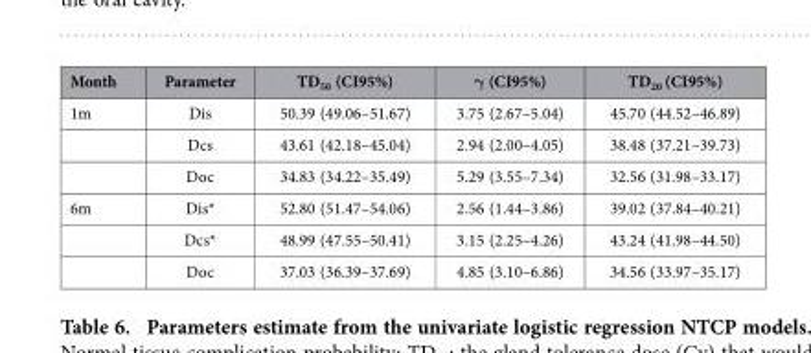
<table><thead><tr><td>Month</td><td>Parameter</td><td>TD<sub>50</sub> (CI95%)</td><td>γ (CI95%)</td><td>TD<sub>20</sub> (CI95%)</td></tr></thead><tbody><tr><td rowspan="3">1m</td><td>Dis</td><td>50.39 (49.06–51.67)</td><td>3.75 (2.67–5.04)</td><td>45.70 (44.52–46.89)</td></tr><tr><td>Dcs</td><td>43.61 (42.18–45.04)</td><td>2.94 (2.00–4.05)</td><td>38.48 (37.21–39.73)</td></tr><tr><td>Doc</td><td>34.83 (34.22–35.49)</td><td>5.29 (3.55–7.34)</td><td>32.56 (31.98–33.17)</td></tr><tr><td rowspan="3">6m</td><td>Dis*</td><td>52.80 (51.47–54.06)</td><td>2.56 (1.44–3.86)</td><td>39.02 (37.84–40.21)</td></tr><tr><td>Dcs*</td><td>48.99 (47.55–50.41)</td><td>3.15 (2.25–4.26)</td><td>43.24 (41.98–44.50)</td></tr><tr><td>Doc</td><td>37.03 (36.39–37.69)</td><td>4.85 (3.10–6.86)</td><td>34.56 (33.97–35.17)</td></tr></tbody></table>